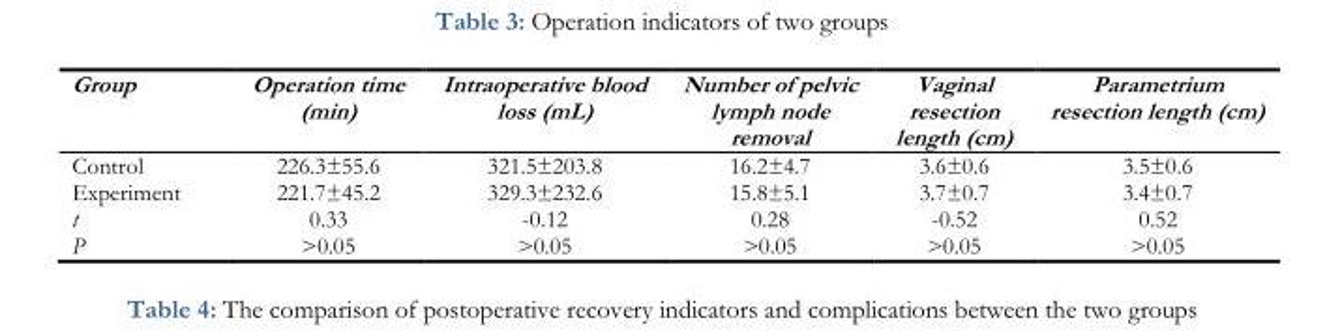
<table><thead><tr><td>Group</td><td>Operation time (min)</td><td>Intraoperative blood loss (mL)</td><td>Number of pelvic lymph node removal</td><td>Vaginal resection length (cm)</td><td>Parametrium resection length (cm)</td></tr></thead><tbody><tr><td>Control</td><td>226.3±55.6</td><td>321.5±203.8</td><td>16.2±4.7</td><td>3.6±0.6</td><td>3.5±0.6</td></tr><tr><td>Experiment</td><td>221.7±45.2</td><td>329.3±232.6</td><td>15.8±5.1</td><td>3.7±0.7</td><td>3.4±0.7</td></tr><tr><td>t</td><td>0.33</td><td>-0.12</td><td>0.28</td><td>-0.52</td><td>0.52</td></tr><tr><td>P</td><td>&gt;0.05</td><td>&gt;0.05</td><td>&gt;0.05</td><td>&gt;0.05</td><td>&gt;0.05</td></tr></tbody></table>